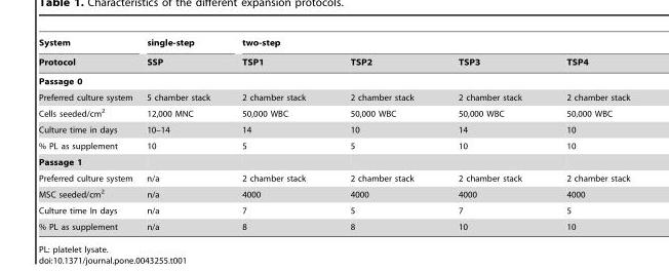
<table><thead><tr><td rowspan="2">System Protocol</td><td rowspan="2">single-step SSP</td><td colspan="4">two-step</td></tr><tr><td>TSP1</td><td>TSP2</td><td>TSP3</td><td>TSP4</td></tr></thead><tbody><tr><td colspan="6">Passage 0</td></tr><tr><td>Preferred culture system</td><td>5 chamber stack</td><td>2 chamber stack</td><td>2 chamber stack</td><td>2 chamber stack</td><td>2 chamber stack</td></tr><tr><td>Cells seeded/cm<sup>2</sup></td><td>12,000 MNC</td><td>50,000 WBC</td><td>50,000 WBC</td><td>50,000 WBC</td><td>50,000 WBC</td></tr><tr><td>Culture time in days</td><td>10–14</td><td>14</td><td>10</td><td>14</td><td>10</td></tr><tr><td>% PL as supplement</td><td>10</td><td>5</td><td>5</td><td>10</td><td>10</td></tr><tr><td colspan="6">Passage 1</td></tr><tr><td>Preferred culture system</td><td>n/a</td><td>2 chamber stack</td><td>2 chamber stack</td><td>2 chamber stack</td><td>2 chamber stack</td></tr><tr><td>MSC seeded/cm<sup>2</sup></td><td>n/a</td><td>4000</td><td>4000</td><td>4000</td><td>4000</td></tr><tr><td>Culture time In days</td><td>n/a</td><td>7</td><td>5</td><td>7</td><td>5</td></tr><tr><td>% PL as supplement</td><td>n/a</td><td>8</td><td>8</td><td>10</td><td>10</td></tr></tbody></table>